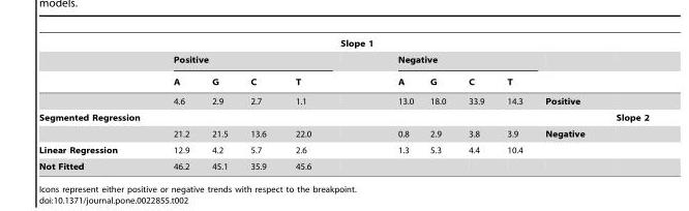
<table><thead><tr><td rowspan="3"></td><td></td><td></td><td></td><td></td><td rowspan="3">Slope 1</td><td></td><td></td><td></td><td></td><td rowspan="3"></td><td rowspan="3"></td></tr><tr><td colspan="4">Positive</td><td colspan="4">Negative</td></tr><tr><td>A</td><td>G</td><td>C</td><td>T</td><td>A</td><td>G</td><td>C</td><td>T</td></tr></thead><tbody><tr><td></td><td>4.6</td><td>2.9</td><td>2.7</td><td>1.1</td><td></td><td>13.0</td><td>18.0</td><td>33.9</td><td>14.3</td><td>Positive</td><td></td></tr><tr><td rowspan="2">Segmented Regression</td><td></td><td></td><td></td><td></td><td></td><td></td><td></td><td></td><td></td><td></td><td>Slope 2</td></tr><tr><td>21.2</td><td>21.5</td><td>13.6</td><td>22.0</td><td></td><td>0.8</td><td>2.9</td><td>3.8</td><td>3.9</td><td>Negative</td><td></td></tr><tr><td>Linear Regression</td><td>12.9</td><td>4.2</td><td>5.7</td><td>2.6</td><td></td><td>1.3</td><td>5.3</td><td>4.4</td><td>10.4</td><td></td><td></td></tr><tr><td>Not Fitted</td><td>46.2</td><td>45.1</td><td>35.9</td><td>45.6</td><td></td><td></td><td></td><td></td><td></td><td></td><td></td></tr></tbody></table>